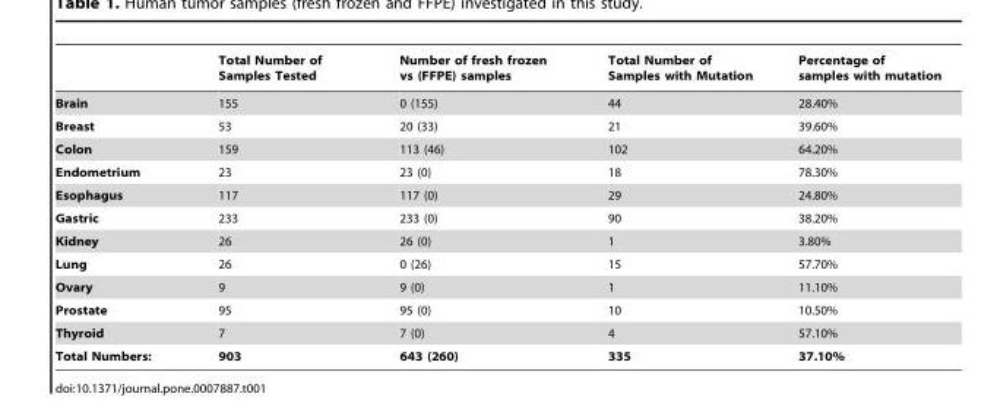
<table><thead><tr><td></td><td>Total Number of Samples Tested</td><td>Number of fresh frozen vs (FFPE) samples</td><td>Total Number of Samples with Mutation</td><td>Percentage of samples with mutation</td></tr></thead><tbody><tr><td>Brain</td><td>155</td><td>0 (155)</td><td>44</td><td>28.40%</td></tr><tr><td>Breast</td><td>53</td><td>20 (33)</td><td>21</td><td>39.60%</td></tr><tr><td>Colon</td><td>159</td><td>113 (46)</td><td>102</td><td>64.20%</td></tr><tr><td>Endometrium</td><td>23</td><td>23 (0)</td><td>18</td><td>78.30%</td></tr><tr><td>Esophagus</td><td>117</td><td>117 (0)</td><td>29</td><td>24.80%</td></tr><tr><td>Gastric</td><td>233</td><td>233 (0)</td><td>90</td><td>38.20%</td></tr><tr><td>Kidney</td><td>26</td><td>26 (0)</td><td>1</td><td>3.80%</td></tr><tr><td>Lung</td><td>26</td><td>0 (26)</td><td>15</td><td>57.70%</td></tr><tr><td>Ovary</td><td>9</td><td>9 (0)</td><td>1</td><td>11.10%</td></tr><tr><td>Prostate</td><td>95</td><td>95 (0)</td><td>10</td><td>10.50%</td></tr><tr><td>Thyroid</td><td>7</td><td>7 (0)</td><td>4</td><td>57.10%</td></tr><tr><td>Total Numbers:</td><td>903</td><td>643 (260)</td><td>335</td><td>37.10%</td></tr></tbody></table>